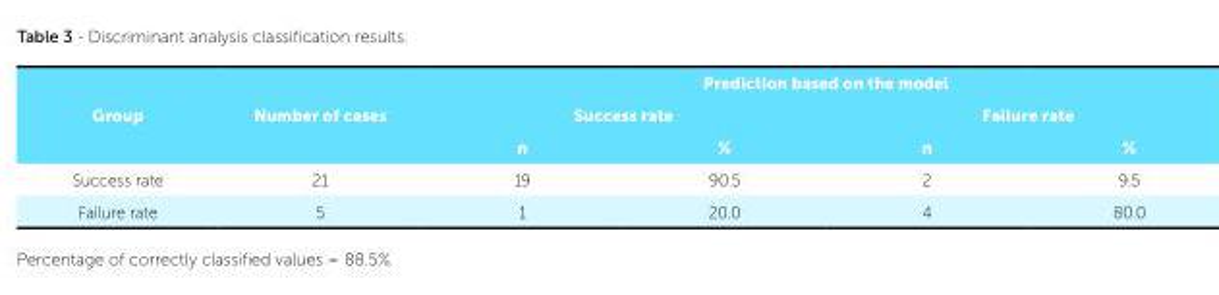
<table><thead><tr><td rowspan="3">Group</td><td rowspan="3">Number of cases</td><td colspan="4">Prediction based on the model</td></tr><tr><td colspan="2">Success rate</td><td colspan="2">Failure rate</td></tr><tr><td>n</td><td>%</td><td>n</td><td>%</td></tr></thead><tbody><tr><td>Success rate</td><td>21</td><td>19</td><td>90.5</td><td>2</td><td>9.5</td></tr><tr><td>Failure rate</td><td>5</td><td>1</td><td>20.0</td><td>4</td><td>80.0</td></tr></tbody></table>